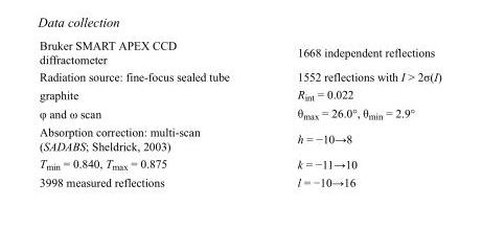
<table><tbody><tr><td>Bruker SMART APEX CCD diffractometer</td><td>1668 independent reflections</td></tr><tr><td>Radiation source: fine-focus sealed tube</td><td>1552 reflections with I &gt; 2σ(I)</td></tr><tr><td>graphite</td><td>R<sub>int</sub> = 0.022</td></tr><tr><td>φ and ω scan</td><td>θ<sub>max</sub> = 26.0°, θ<sub>min</sub> = 2.9°</td></tr><tr><td>Absorption correction: multi-scan (SADABS; Sheldrick, 2003)</td><td>h = −10→8</td></tr><tr><td>T<sub>min</sub> = 0.840, T<sub>max</sub> = 0.875</td><td>k = −11→10</td></tr><tr><td>3998 measured reflections</td><td>l = −10→16</td></tr></tbody></table>